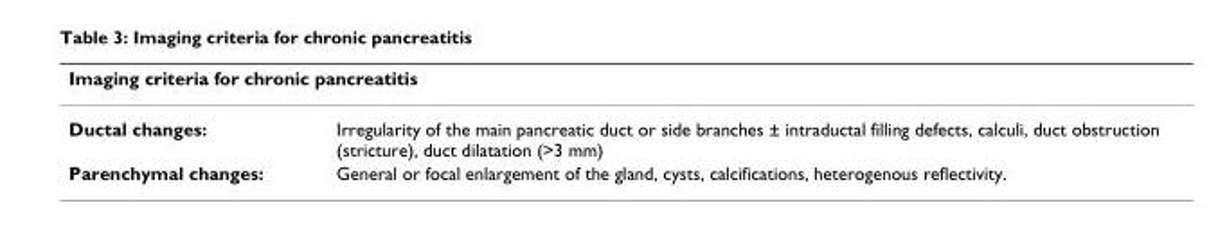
<table><thead><tr><td colspan="2">Imaging criteria for chronic pancreatitis</td></tr><tr><td>Ductal changes:</td><td>Irregularity of the main pancreatic duct or side branches ± intraductal filling defects, calculi, duct obstruction (stricture), duct dilatation (&gt;3 mm)</td></tr></thead><tbody><tr><td>Parenchymal changes:</td><td>General or focal enlargement of the gland, cysts, calcifications, heterogenous reflectivity.</td></tr></tbody></table>